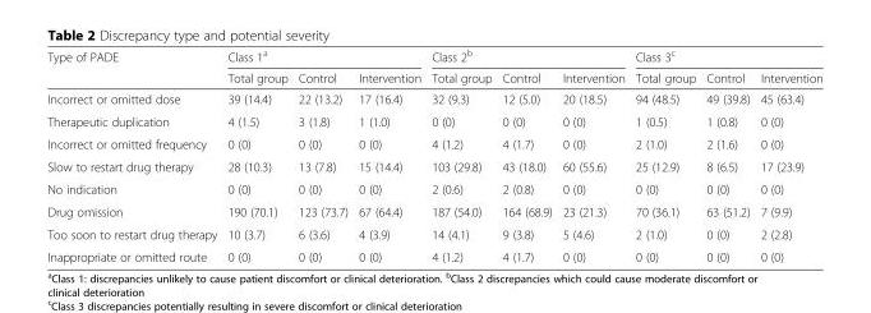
<table><thead><tr><td rowspan="2">Type of PADE</td><td colspan="3">Class 1<sup>a</sup></td><td colspan="3">Class 2<sup>b</sup></td><td colspan="3">Class 3<sup>c</sup></td></tr><tr><td>Total group</td><td>Control</td><td>Intervention</td><td>Total group</td><td>Control</td><td>Intervention</td><td>Total group</td><td>Control</td><td>Intervention</td></tr></thead><tbody><tr><td>Incorrect or omitted dose</td><td>39 (14.4)</td><td>22 (13.2)</td><td>17 (16.4)</td><td>32 (9.3)</td><td>12 (5.0)</td><td>20 (18.5)</td><td>94 (48.5)</td><td>49 (39.8)</td><td>45 (63.4)</td></tr><tr><td>Therapeutic duplication</td><td>4 (1.5)</td><td>3 (1.8)</td><td>1 (1.0)</td><td>0 (0)</td><td>0 (0)</td><td>0 (0)</td><td>1 (0.5)</td><td>1 (0.8)</td><td>0 (0)</td></tr><tr><td>Incorrect or omitted frequency</td><td>0 (0)</td><td>0 (0)</td><td>0 (0)</td><td>4 (1.2)</td><td>4 (1.7)</td><td>0 (0)</td><td>2 (1.0)</td><td>2 (1.6)</td><td>0 (0)</td></tr><tr><td>Slow to restart drug therapy</td><td>28 (10.3)</td><td>13 (7.8)</td><td>15 (14.4)</td><td>103 (29.8)</td><td>43 (18.0)</td><td>60 (55.6)</td><td>25 (12.9)</td><td>8 (6.5)</td><td>17 (23.9)</td></tr><tr><td>No indication</td><td>0 (0)</td><td>0 (0)</td><td>0 (0)</td><td>2 (0.6)</td><td>2 (0.8)</td><td>0 (0)</td><td>0 (0)</td><td>0 (0)</td><td>0 (0)</td></tr><tr><td>Drug omission</td><td>190 (70.1)</td><td>123 (73.7)</td><td>67 (64.4)</td><td>187 (54.0)</td><td>164 (68.9)</td><td>23 (21.3)</td><td>70 (36.1)</td><td>63 (51.2)</td><td>7 (9.9)</td></tr><tr><td>Too soon to restart drug therapy</td><td>10 (3.7)</td><td>6 (3.6)</td><td>4 (3.9)</td><td>14 (4.1)</td><td>9 (3.8)</td><td>5 (4.6)</td><td>2 (1.0)</td><td>0 (0)</td><td>2 (2.8)</td></tr><tr><td>Inappropriate or omitted route</td><td>0 (0)</td><td>0 (0)</td><td>0 (0)</td><td>4 (1.2)</td><td>4 (1.7)</td><td>0 (0)</td><td>0 (0)</td><td>0 (0)</td><td>0 (0)</td></tr></tbody></table>